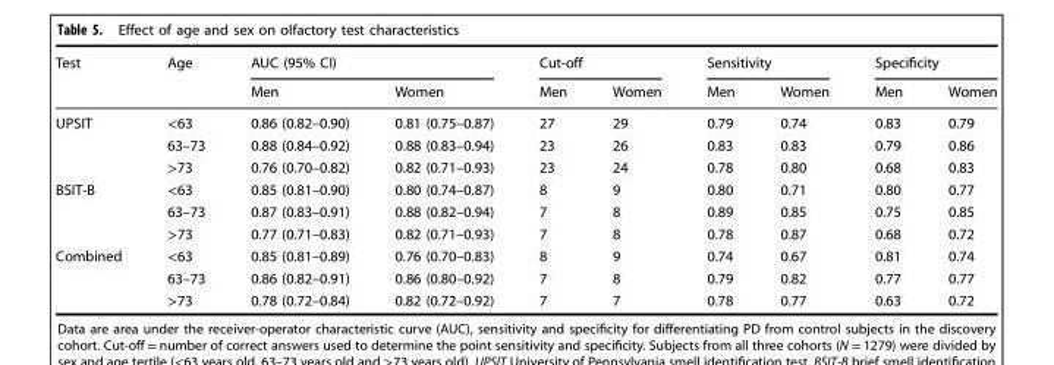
<table><thead><tr><td rowspan="2">Test</td><td rowspan="2">Age</td><td colspan="2">AUC (95% CI)</td><td colspan="2">Cut-off</td><td colspan="2">Sensitivity</td><td colspan="2">Specificity</td></tr><tr><td>Men</td><td>Women</td><td>Men</td><td>Women</td><td>Men</td><td>Women</td><td>Men</td><td>Women</td></tr></thead><tbody><tr><td rowspan="3">UPSIT</td><td>&lt;63</td><td>0.86 (0.82–0.90)</td><td>0.81 (0.75–0.87)</td><td>27</td><td>29</td><td>0.79</td><td>0.74</td><td>0.83</td><td>0.79</td></tr><tr><td>63–73</td><td>0.88 (0.84–0.92)</td><td>0.88 (0.83–0.94)</td><td>23</td><td>26</td><td>0.83</td><td>0.83</td><td>0.79</td><td>0.86</td></tr><tr><td>&gt;73</td><td>0.76 (0.70–0.82)</td><td>0.82 (0.71–0.93)</td><td>23</td><td>24</td><td>0.78</td><td>0.80</td><td>0.68</td><td>0.83</td></tr><tr><td rowspan="3">BSIT-B</td><td>&lt;63</td><td>0.85 (0.81–0.90)</td><td>0.80 (0.74–0.87)</td><td>8</td><td>9</td><td>0.80</td><td>0.71</td><td>0.80</td><td>0.77</td></tr><tr><td>63–73</td><td>0.87 (0.83–0.91)</td><td>0.88 (0.82–0.94)</td><td>7</td><td>8</td><td>0.89</td><td>0.85</td><td>0.75</td><td>0.85</td></tr><tr><td>&gt;73</td><td>0.77 (0.71–0.83)</td><td>0.82 (0.71–0.93)</td><td>7</td><td>8</td><td>0.78</td><td>0.87</td><td>0.68</td><td>0.72</td></tr><tr><td rowspan="3">Combined</td><td>&lt;63</td><td>0.85 (0.81–0.89)</td><td>0.76 (0.70–0.83)</td><td>8</td><td>9</td><td>0.74</td><td>0.67</td><td>0.81</td><td>0.74</td></tr><tr><td>63–73</td><td>0.86 (0.82–0.91)</td><td>0.86 (0.80–0.92)</td><td>7</td><td>8</td><td>0.79</td><td>0.82</td><td>0.77</td><td>0.77</td></tr><tr><td>&gt;73</td><td>0.78 (0.72–0.84)</td><td>0.82 (0.72–0.92)</td><td>7</td><td>7</td><td>0.78</td><td>0.77</td><td>0.63</td><td>0.72</td></tr></tbody></table>